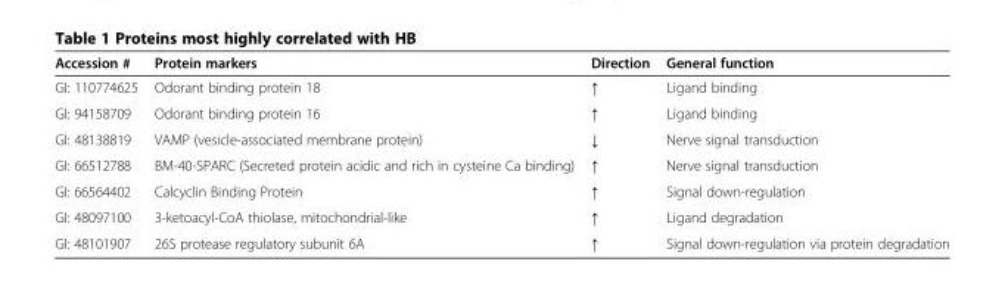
<table><thead><tr><td>Accession #</td><td>Protein markers</td><td>Direction</td><td>General function</td></tr></thead><tbody><tr><td>GI: 110774625</td><td>Odorant binding protein 18</td><td>↑</td><td>Ligand binding</td></tr><tr><td>GI: 94158709</td><td>Odorant binding protein 16</td><td>↑</td><td>Ligand binding</td></tr><tr><td>GI: 48138819</td><td>VAMP (vesicle-associated membrane protein)</td><td>↓</td><td>Nerve signal transduction</td></tr><tr><td>GI: 66512788</td><td>BM-40-SPARC (Secreted protein acidic and rich in cysteine Ca binding)</td><td>↑</td><td>Nerve signal transduction</td></tr><tr><td>GI: 66564402</td><td>Calcyclin Binding Protein</td><td>↑</td><td>Signal down-regulation</td></tr><tr><td>GI: 48097100</td><td>3-ketoacyl-CoA thiolase, mitochondrial-like</td><td>↑</td><td>Ligand degradation</td></tr><tr><td>GI: 48101907</td><td>26S protease regulatory subunit 6A</td><td>↑</td><td>Signal down-regulation via protein degradation</td></tr></tbody></table>